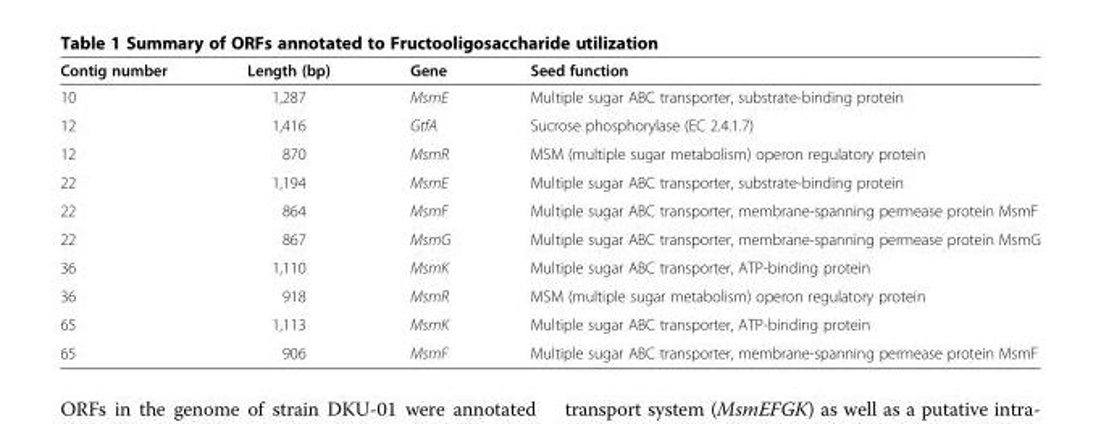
<table><thead><tr><td>Contig number</td><td>Length (bp)</td><td>Gene</td><td>Seed function</td></tr></thead><tbody><tr><td>10</td><td>1,287</td><td>MsmE</td><td>Multiple sugar ABC transporter, substrate-binding protein</td></tr><tr><td>12</td><td>1,416</td><td>GtfA</td><td>Sucrose phosphorylase (EC 2.4.1.7)</td></tr><tr><td>12</td><td>870</td><td>MsmR</td><td>MSM (multiple sugar metabolism) operon regulatory protein</td></tr><tr><td>22</td><td>1,194</td><td>MsmE</td><td>Multiple sugar ABC transporter, substrate-binding protein</td></tr><tr><td>22</td><td>864</td><td>MsmF</td><td>Multiple sugar ABC transporter, membrane-spanning permease protein MsmF</td></tr><tr><td>22</td><td>867</td><td>MsmG</td><td>Multiple sugar ABC transporter, membrane-spanning permease protein MsmG</td></tr><tr><td>36</td><td>1,110</td><td>MsmK</td><td>Multiple sugar ABC transporter, ATP-binding protein</td></tr><tr><td>36</td><td>918</td><td>MsmR</td><td>MSM (multiple sugar metabolism) operon regulatory protein</td></tr><tr><td>65</td><td>1,113</td><td>MsmK</td><td>Multiple sugar ABC transporter, ATP-binding protein</td></tr><tr><td>65</td><td>906</td><td>MsmF</td><td>Multiple sugar ABC transporter, membrane-spanning permease protein MsmF</td></tr></tbody></table>